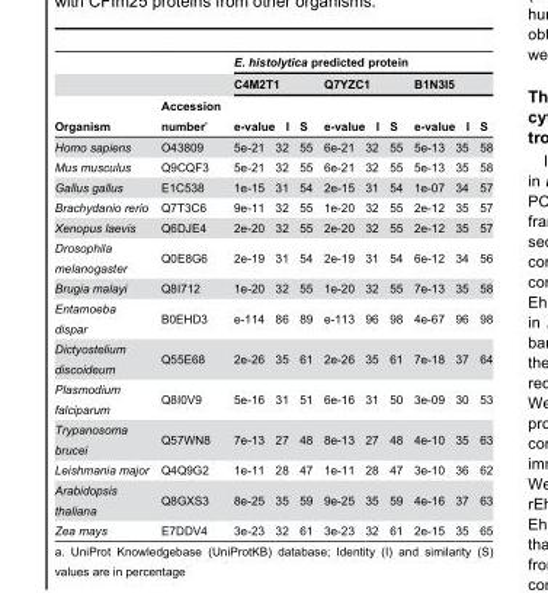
<table><thead><tr><td rowspan="3">Organism</td><td rowspan="3">Accession number <sup>a</sup></td><td colspan="9">E. histolytica predicted protein</td></tr><tr><td colspan="3">C4M2T1</td><td colspan="3">Q7YZC1</td><td colspan="3">B1N3I5</td></tr><tr><td>e-value</td><td>I</td><td>S</td><td>e-value</td><td>I</td><td>S</td><td>e-value</td><td>I</td><td>S</td></tr></thead><tbody><tr><td>Homo sapiens</td><td>O43809</td><td>5e-21</td><td>32</td><td>55</td><td>6e-21</td><td>32</td><td>55</td><td>5e-13</td><td>35</td><td>58</td></tr><tr><td>Mus musculus</td><td>Q9CQF3</td><td>5e-21</td><td>32</td><td>55</td><td>6e-21</td><td>32</td><td>55</td><td>5e-13</td><td>35</td><td>58</td></tr><tr><td>Gallus gallus</td><td>E1C538</td><td>1e-15</td><td>31</td><td>54</td><td>2e-15</td><td>31</td><td>54</td><td>1e-07</td><td>34</td><td>57</td></tr><tr><td>Brachydanio rerio</td><td>Q7T3C6</td><td>9e-11</td><td>32</td><td>55</td><td>1e-20</td><td>32</td><td>55</td><td>2e-12</td><td>35</td><td>57</td></tr><tr><td>Xenopus laevis</td><td>Q6DJE4</td><td>2e-20</td><td>32</td><td>55</td><td>2e-20</td><td>32</td><td>55</td><td>2e-12</td><td>35</td><td>57</td></tr><tr><td>Drosophila melanogaster</td><td>Q0E8G6</td><td>2e-19</td><td>31</td><td>54</td><td>2e-19</td><td>31</td><td>54</td><td>6e-12</td><td>34</td><td>56</td></tr><tr><td>Brugia malayi</td><td>Q8I712</td><td>1e-20</td><td>32</td><td>55</td><td>1e-20</td><td>32</td><td>55</td><td>7e-13</td><td>35</td><td>58</td></tr><tr><td>Entamoeba dispar</td><td>B0EHD3</td><td>e-114</td><td>86</td><td>89</td><td>e-113</td><td>96</td><td>98</td><td>4e-67</td><td>96</td><td>98</td></tr><tr><td>Dictyostelium discoideum</td><td>Q55E68</td><td>2e-26</td><td>35</td><td>61</td><td>2e-26</td><td>35</td><td>61</td><td>7e-18</td><td>37</td><td>64</td></tr><tr><td>Plasmodium falciparum</td><td>Q8I0V9</td><td>5e-16</td><td>31</td><td>51</td><td>6e-16</td><td>31</td><td>50</td><td>3e-09</td><td>30</td><td>53</td></tr><tr><td>Trypanosoma brucei</td><td>Q57WN8</td><td>7e-13</td><td>27</td><td>48</td><td>8e-13</td><td>27</td><td>48</td><td>4e-10</td><td>35</td><td>63</td></tr><tr><td>Leishmania major</td><td>Q4Q9G2</td><td>1e-11</td><td>28</td><td>47</td><td>1e-11</td><td>28</td><td>47</td><td>3e-10</td><td>36</td><td>62</td></tr><tr><td>Arabidopsis thaliana</td><td>Q8GXS3</td><td>8e-25</td><td>35</td><td>59</td><td>9e-25</td><td>35</td><td>59</td><td>4e-16</td><td>37</td><td>63</td></tr><tr><td>Zea mays</td><td>E7DDV4</td><td>3e-23</td><td>32</td><td>61</td><td>3e-23</td><td>32</td><td>61</td><td>2e-15</td><td>35</td><td>65</td></tr></tbody></table>